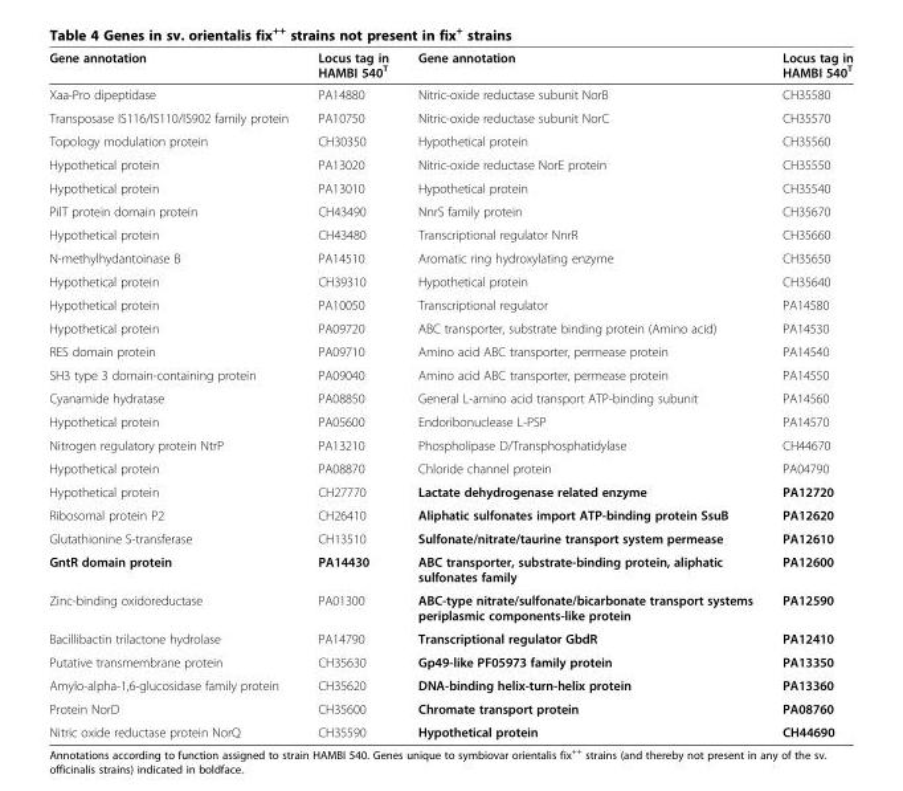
<table><thead><tr><td>Gene annotation</td><td>Locus tag in HAMBI 540<sup>T</sup></td><td>Gene annotation</td><td>Locus tag in HAMBI 540<sup>T</sup></td></tr></thead><tbody><tr><td>Xaa-Pro dipeptidase</td><td>PA14880</td><td>Nitric-oxide reductase subunit NorB</td><td>CH35580</td></tr><tr><td>Transposase IS116/IS110/IS902 family protein</td><td>PA10750</td><td>Nitric-oxide reductase subunit NorC</td><td>CH35570</td></tr><tr><td>Topology modulation protein</td><td>CH30350</td><td>Hypothetical protein</td><td>CH35560</td></tr><tr><td>Hypothetical protein</td><td>PA13020</td><td>Nitric-oxide reductase NorE protein</td><td>CH35550</td></tr><tr><td>Hypothetical protein</td><td>PA13010</td><td>Hypothetical protein</td><td>CH35540</td></tr><tr><td>PilT protein domain protein</td><td>CH43490</td><td>NnrS family protein</td><td>CH35670</td></tr><tr><td>Hypothetical protein</td><td>CH43480</td><td>Transcriptional regulator NnrR</td><td>CH35660</td></tr><tr><td>N-methylhydantoinase B</td><td>PA14510</td><td>Aromatic ring hydroxylating enzyme</td><td>CH35650</td></tr><tr><td>Hypothetical protein</td><td>CH39310</td><td>Hypothetical protein</td><td>CH35640</td></tr><tr><td>Hypothetical protein</td><td>PA10050</td><td>Transcriptional regulator</td><td>PA14580</td></tr><tr><td>Hypothetical protein</td><td>PA09720</td><td>ABC transporter, substrate binding protein (Amino acid)</td><td>PA14530</td></tr><tr><td>RES domain protein</td><td>PA09710</td><td>Amino acid ABC transporter, permease protein</td><td>PA14540</td></tr><tr><td>SH3 type 3 domain-containing protein</td><td>PA09040</td><td>Amino acid ABC transporter, permease protein</td><td>PA14550</td></tr><tr><td>Cyanamide hydratase</td><td>PA08850</td><td>General L-amino acid transport ATP-binding subunit</td><td>PA14560</td></tr><tr><td>Hypothetical protein</td><td>PA05600</td><td>Endoribonuclease L-PSP</td><td>PA14570</td></tr><tr><td>Nitrogen regulatory protein NtrP</td><td>PA13210</td><td>Phospholipase D/Transphosphatidylase</td><td>CH44670</td></tr><tr><td>Hypothetical protein</td><td>PA08870</td><td>Chloride channel protein</td><td>PA04790</td></tr><tr><td>Hypothetical protein</td><td>CH27770</td><td>Lactate dehydrogenase related enzyme</td><td>PA12720</td></tr><tr><td>Ribosomal protein P2</td><td>CH26410</td><td>Aliphatic sulfonates import ATP-binding protein SsuB</td><td>PA12620</td></tr><tr><td>Glutathionine S-transferase</td><td>CH13510</td><td>Sulfonate/nitrate/taurine transport system permease</td><td>PA12610</td></tr><tr><td>GntR domain protein</td><td>PA14430</td><td>ABC transporter, substrate-binding protein, aliphatic sulfonates family</td><td>PA12600</td></tr><tr><td>Zinc-binding oxidoreductase</td><td>PA01300</td><td>ABC-type nitrate/sulfonate/bicarbonate transport systems periplasmic components-like protein</td><td>PA12590</td></tr><tr><td>Bacillibactin trilactone hydrolase</td><td>PA14790</td><td>Transcriptional regulator GbdR</td><td>PA12410</td></tr><tr><td>Putative transmembrane protein</td><td>CH35630</td><td>Gp49-like PF05973 family protein</td><td>PA13350</td></tr><tr><td>Amylo-alpha-1,6-glucosidase family protein</td><td>CH35620</td><td>DNA-binding helix-turn-helix protein</td><td>PA13360</td></tr><tr><td>Protein NorD</td><td>CH35600</td><td>Chromate transport protein</td><td>PA08760</td></tr><tr><td>Nitric oxide reductase protein NorQ</td><td>CH35590</td><td>Hypothetical protein</td><td>CH44690</td></tr></tbody></table>